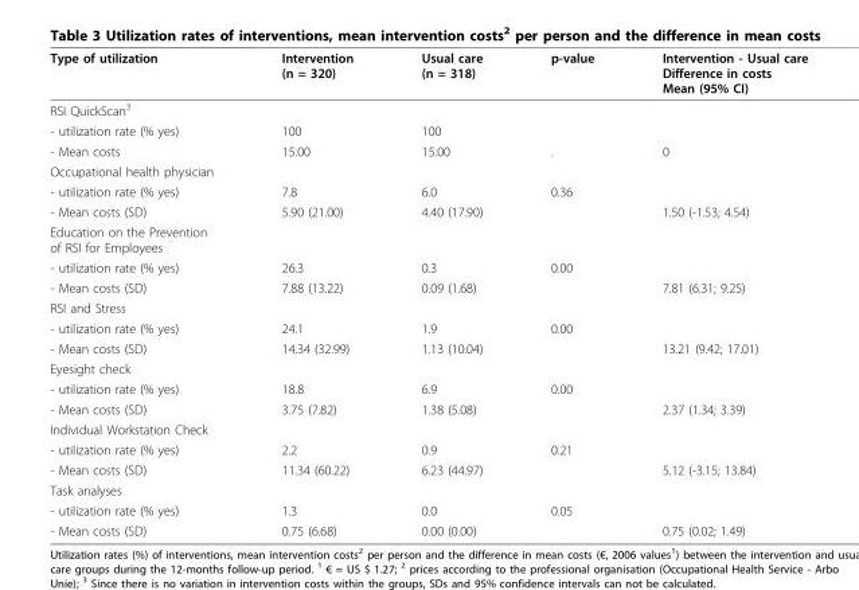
<table><thead><tr><td>Type of utilization</td><td>Intervention (n = 320)</td><td>Usual care (n = 318)</td><td>p-value</td><td>Intervention - Usual care Difference in costs Mean (95% CI)</td></tr></thead><tbody><tr><td colspan="5">RSI QuickScan<sup>3</sup></td></tr><tr><td>- utilization rate (% yes)</td><td>100</td><td>100</td><td></td><td></td></tr><tr><td>- Mean costs</td><td>15.00</td><td>15.00</td><td>.</td><td>0</td></tr><tr><td colspan="5">Occupational health physician</td></tr><tr><td>- utilization rate (% yes)</td><td>7.8</td><td>6.0</td><td>0.36</td><td></td></tr><tr><td>- Mean costs (SD)</td><td>5.90 (21.00)</td><td>4.40 (17.90)</td><td></td><td>1.50 (-1.53; 4.54)</td></tr><tr><td colspan="5">Education on the Prevention of RSI for Employees</td></tr><tr><td>- utilization rate (% yes)</td><td>26.3</td><td>0.3</td><td>0.00</td><td></td></tr><tr><td>- Mean costs (SD)</td><td>7.88 (13.22)</td><td>0.09 (1.68)</td><td></td><td>7.81 (6.31; 9.25)</td></tr><tr><td colspan="5">RSI and Stress</td></tr><tr><td>- utilization rate (% yes)</td><td>24.1</td><td>1.9</td><td>0.00</td><td></td></tr><tr><td>- Mean costs (SD)</td><td>14.34 (32.99)</td><td>1.13 (10.04)</td><td></td><td>13.21 (9.42; 17.01)</td></tr><tr><td colspan="5">Eyesight check</td></tr><tr><td>- utilization rate (% yes)</td><td>18.8</td><td>6.9</td><td>0.00</td><td></td></tr><tr><td>- Mean costs (SD)</td><td>3.75 (7.82)</td><td>1.38 (5.08)</td><td></td><td>2.37 (1.34; 3.39)</td></tr><tr><td colspan="5">Individual Workstation Check</td></tr><tr><td>- utilization rate (% yes)</td><td>2.2</td><td>0.9</td><td>0.21</td><td></td></tr><tr><td>- Mean costs (SD)</td><td>11.34 (60.22)</td><td>6.23 (44.97)</td><td></td><td>5.12 (-3.15; 13.84)</td></tr><tr><td colspan="5">Task analyses</td></tr><tr><td>- utilization rate (% yes)</td><td>1.3</td><td>0.0</td><td>0.05</td><td></td></tr><tr><td>- Mean costs (SD)</td><td>0.75 (6.68)</td><td>0.00 (0.00)</td><td></td><td>0.75 (0.02; 1.49)</td></tr></tbody></table>